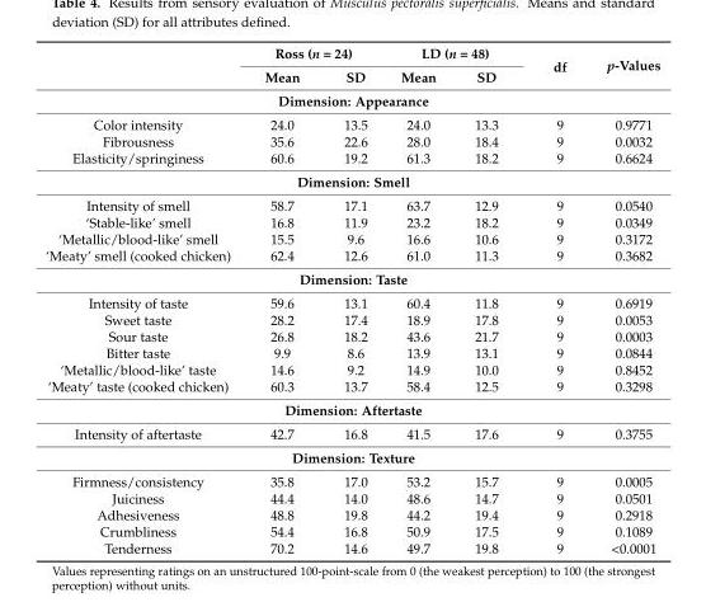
<table><thead><tr><td rowspan="2"></td><td colspan="2">Ross (n = 24)</td><td colspan="2">LD (n = 48)</td><td rowspan="2">df</td><td rowspan="2">p-Values</td></tr><tr><td>Mean</td><td>SD</td><td>Mean</td><td>SD</td></tr></thead><tbody><tr><td colspan="7">Dimension: Appearance</td></tr><tr><td>Color intensity</td><td>24.0</td><td>13.5</td><td>24.0</td><td>13.3</td><td>9</td><td>0.9771</td></tr><tr><td>Fibrousness</td><td>35.6</td><td>22.6</td><td>28.0</td><td>18.4</td><td>9</td><td>0.0032</td></tr><tr><td>Elasticity/springiness</td><td>60.6</td><td>19.2</td><td>61.3</td><td>18.2</td><td>9</td><td>0.6624</td></tr><tr><td colspan="7">Dimension: Smell</td></tr><tr><td>Intensity of smell</td><td>58.7</td><td>17.1</td><td>63.7</td><td>12.9</td><td>9</td><td>0.0540</td></tr><tr><td>‘Stable-like’ smell</td><td>16.8</td><td>11.9</td><td>23.2</td><td>18.2</td><td>9</td><td>0.0349</td></tr><tr><td>‘Metallic/blood-like’ smell</td><td>15.5</td><td>9.6</td><td>16.6</td><td>10.6</td><td>9</td><td>0.3172</td></tr><tr><td>‘Meaty’ smell (cooked chicken)</td><td>62.4</td><td>12.6</td><td>61.0</td><td>11.3</td><td>9</td><td>0.3682</td></tr><tr><td colspan="7">Dimension: Taste</td></tr><tr><td>Intensity of taste</td><td>59.6</td><td>13.1</td><td>60.4</td><td>11.8</td><td>9</td><td>0.6919</td></tr><tr><td>Sweet taste</td><td>28.2</td><td>17.4</td><td>18.9</td><td>17.8</td><td>9</td><td>0.0053</td></tr><tr><td>Sour taste</td><td>26.8</td><td>18.2</td><td>43.6</td><td>21.7</td><td>9</td><td>0.0003</td></tr><tr><td>Bitter taste</td><td>9.9</td><td>8.6</td><td>13.9</td><td>13.1</td><td>9</td><td>0.0844</td></tr><tr><td>‘Metallic/blood-like’ taste</td><td>14.6</td><td>9.2</td><td>14.9</td><td>10.0</td><td>9</td><td>0.8452</td></tr><tr><td>‘Meaty’ taste (cooked chicken)</td><td>60.3</td><td>13.7</td><td>58.4</td><td>12.5</td><td>9</td><td>0.3298</td></tr><tr><td colspan="7">Dimension: Aftertaste</td></tr><tr><td>Intensity of aftertaste</td><td>42.7</td><td>16.8</td><td>41.5</td><td>17.6</td><td>9</td><td>0.3755</td></tr><tr><td colspan="7">Dimension: Texture</td></tr><tr><td>Firmness/consistency</td><td>35.8</td><td>17.0</td><td>53.2</td><td>15.7</td><td>9</td><td>0.0005</td></tr><tr><td>Juiciness</td><td>44.4</td><td>14.0</td><td>48.6</td><td>14.7</td><td>9</td><td>0.0501</td></tr><tr><td>Adhesiveness</td><td>48.8</td><td>19.8</td><td>44.2</td><td>19.4</td><td>9</td><td>0.2918</td></tr><tr><td>Crumbliness</td><td>54.4</td><td>16.8</td><td>50.9</td><td>17.5</td><td>9</td><td>0.1089</td></tr><tr><td>Tenderness</td><td>70.2</td><td>14.6</td><td>49.7</td><td>19.8</td><td>9</td><td>&lt;0.0001</td></tr></tbody></table>